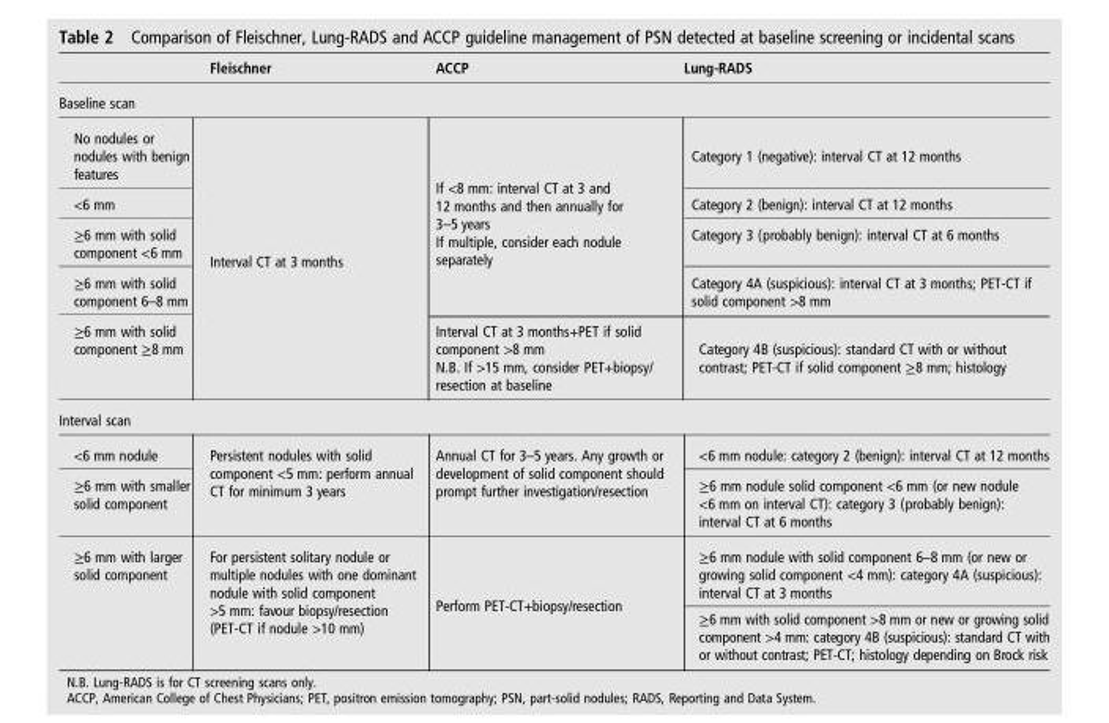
<table><thead><tr><td></td><td>Fleischner</td><td>ACCP</td><td>Lung-RADS</td></tr></thead><tbody><tr><td colspan="4">Baseline scan</td></tr><tr><td>No nodules or nodules with benign features</td><td rowspan="5">Interval CT at 3 months</td><td rowspan="4">If &lt;8 mm: interval CT at 3 and 12 months and then annually for 3–5 years If multiple, consider each nodule separately</td><td>Category 1 (negative): interval CT at 12 months</td></tr><tr><td>&lt;6 mm</td><td>Category 2 (benign): interval CT at 12 months</td></tr><tr><td>≥6 mm with solid component &lt;6 mm</td><td>Category 3 (probably benign): interval CT at 6 months</td></tr><tr><td>≥6 mm with solid component 6–8 mm</td><td>Category 4A (suspicious): interval CT at 3 months; PET-CT if solid component &gt;8 mm</td></tr><tr><td>≥6 mm with solid component ≥8 mm</td><td>Interval CT at 3 months+PET if solid component &gt;8 mm N.B. If &gt;15 mm, consider PET+biopsy/ resection at baseline</td><td>Category 4B (suspicious): standard CT with or without contrast; PET-CT if solid component ≥8 mm; histology</td></tr><tr><td colspan="4">Interval scan</td></tr><tr><td>&lt;6 mm nodule</td><td rowspan="2">Persistent nodules with solid component &lt;5 mm: perform annual CT for minimum 3 years</td><td rowspan="2">Annual CT for 3–5 years. Any growth or development of solid component should prompt further investigation/resection</td><td>&lt;6 mm nodule: category 2 (benign): interval CT at 12 months</td></tr><tr><td>≥6 mm with smaller solid component</td><td>≥6 mm nodule solid component &lt;6 mm (or new nodule &lt;6 mm on interval CT): category 3 (probably benign): interval CT at 6 months</td></tr><tr><td rowspan="2">≥6 mm with larger solid component</td><td rowspan="2">For persistent solitary nodule or multiple nodules with one dominant nodule with solid component &gt;5 mm: favour biopsy/resection (PET-CT if nodule &gt;10 mm)</td><td rowspan="2">Perform PET-CT+biopsy/resection</td><td>≥6 mm nodule with solid component 6–8 mm (or new or growing solid component &lt;4 mm): category 4A (suspicious): interval CT at 3 months</td></tr><tr><td>≥6 mm with solid component &gt;8 mm or new or growing solid component &gt;4 mm: category 4B (suspicious): standard CT with or without contrast; PET-CT; histology depending on Brock risk</td></tr></tbody></table>